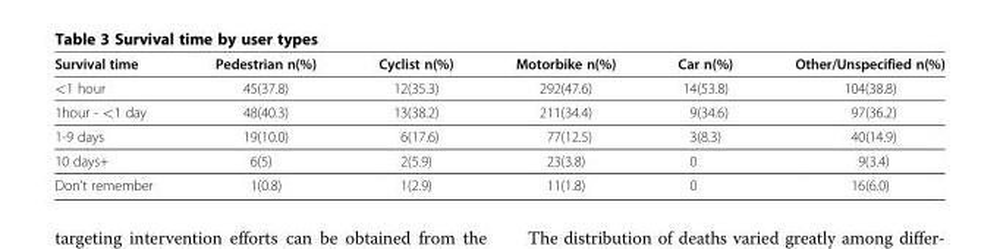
<table><thead><tr><td>Survival time</td><td>Pedestrian n(%)</td><td>Cyclist n(%)</td><td>Motorbike n(%)</td><td>Car n(%)</td><td>Other/Unspecified n(%)</td></tr></thead><tbody><tr><td>&lt;1 hour</td><td>45(37.8)</td><td>12(35.3)</td><td>292(47.6)</td><td>14(53.8)</td><td>104(38.8)</td></tr><tr><td>1hour - &lt;1 day</td><td>48(40.3)</td><td>13(38.2)</td><td>211(34.4)</td><td>9(34.6)</td><td>97(36.2)</td></tr><tr><td>1-9 days</td><td>19(10.0)</td><td>6(17.6)</td><td>77(12.5)</td><td>3(8.3)</td><td>40(14.9)</td></tr><tr><td>10 days+</td><td>6(5)</td><td>2(5.9)</td><td>23(3.8)</td><td>0</td><td>9(3.4)</td></tr><tr><td>Don’t remember</td><td>1(0.8)</td><td>1(2.9)</td><td>11(1.8)</td><td>0</td><td>16(6.0)</td></tr></tbody></table>